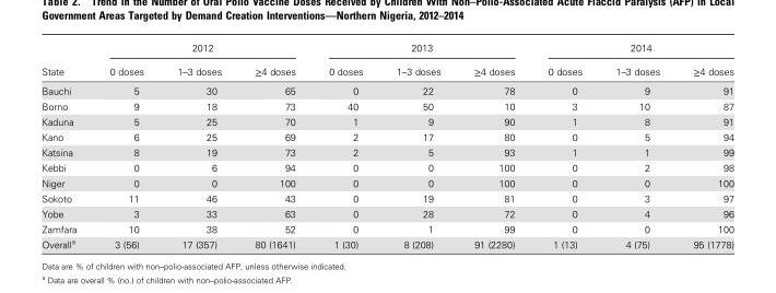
<table><thead><tr><td rowspan="2">State</td><td colspan="3">2012</td><td colspan="3">2013</td><td colspan="3">2014</td></tr><tr><td>0 doses</td><td>1–3 doses</td><td>≥4 doses</td><td>0 doses</td><td>1–3 doses</td><td>≥4 doses</td><td>0 doses</td><td>1–3 doses</td><td>≥4 doses</td></tr></thead><tbody><tr><td>Bauchi</td><td>5</td><td>30</td><td>65</td><td>0</td><td>22</td><td>78</td><td>0</td><td>9</td><td>91</td></tr><tr><td>Borno</td><td>9</td><td>18</td><td>73</td><td>40</td><td>50</td><td>10</td><td>3</td><td>10</td><td>87</td></tr><tr><td>Kaduna</td><td>5</td><td>25</td><td>70</td><td>1</td><td>9</td><td>90</td><td>1</td><td>8</td><td>91</td></tr><tr><td>Kano</td><td>6</td><td>25</td><td>69</td><td>2</td><td>17</td><td>80</td><td>0</td><td>5</td><td>94</td></tr><tr><td>Katsina</td><td>8</td><td>19</td><td>73</td><td>2</td><td>5</td><td>93</td><td>1</td><td>1</td><td>99</td></tr><tr><td>Kebbi</td><td>0</td><td>6</td><td>94</td><td>0</td><td>0</td><td>100</td><td>0</td><td>2</td><td>98</td></tr><tr><td>Niger</td><td>0</td><td>0</td><td>100</td><td>0</td><td>0</td><td>100</td><td>0</td><td>0</td><td>100</td></tr><tr><td>Sokoto</td><td>11</td><td>46</td><td>43</td><td>0</td><td>19</td><td>81</td><td>0</td><td>3</td><td>97</td></tr><tr><td>Yobe</td><td>3</td><td>33</td><td>63</td><td>0</td><td>28</td><td>72</td><td>0</td><td>4</td><td>96</td></tr><tr><td>Zamfara</td><td>10</td><td>38</td><td>52</td><td>0</td><td>1</td><td>99</td><td>0</td><td>0</td><td>100</td></tr><tr><td>Overall<sup>a</sup></td><td>3 (56)</td><td>17 (357)</td><td>80 (1641)</td><td>1 (30)</td><td>8 (208)</td><td>91 (2280)</td><td>1 (13)</td><td>4 (75)</td><td>95 (1778)</td></tr></tbody></table>